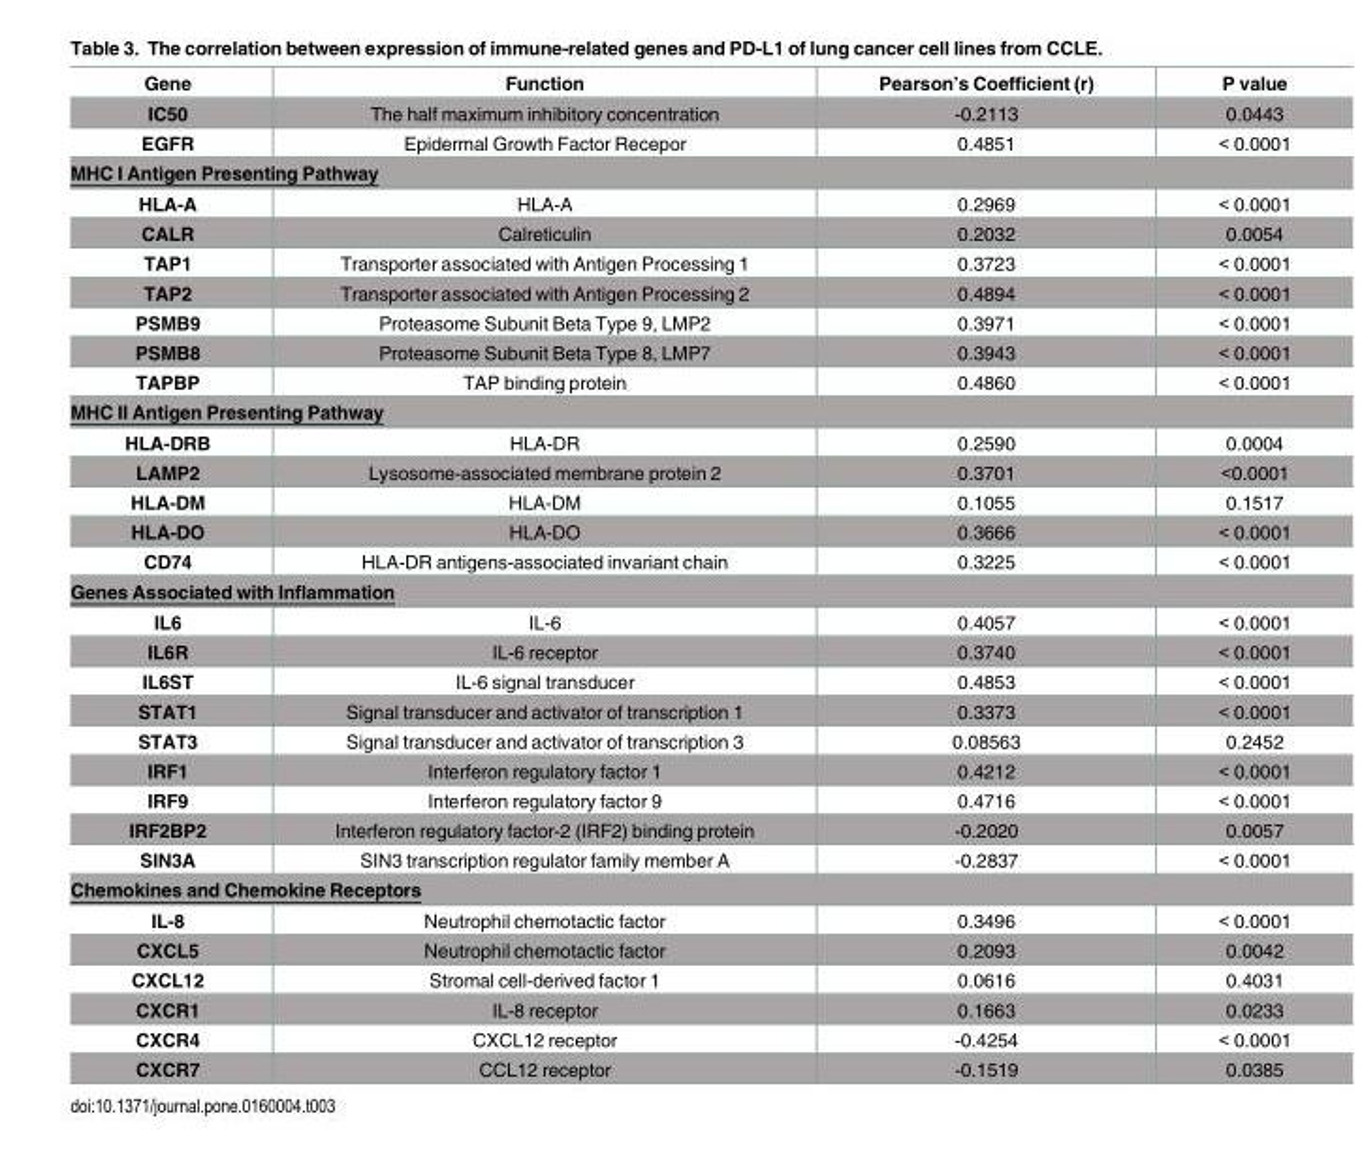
<table><thead><tr><td>Gene</td><td>Function</td><td>Pearson’s Coefficient (r)</td><td>P value</td></tr></thead><tbody><tr><td>IC50</td><td>The half maximum inhibitory concentration</td><td>-0.2113</td><td>0.0443</td></tr><tr><td>EGFR</td><td>Epidermal Growth Factor Recepor</td><td>0.4851</td><td>&lt; 0.0001</td></tr><tr><td colspan="4">MHC I Antigen Presenting Pathway</td></tr><tr><td>HLA-A</td><td>HLA-A</td><td>0.2969</td><td>&lt; 0.0001</td></tr><tr><td>CALR</td><td>Calreticulin</td><td>0.2032</td><td>0.0054</td></tr><tr><td>TAP1</td><td>Transporter associated with Antigen Processing 1</td><td>0.3723</td><td>&lt; 0.0001</td></tr><tr><td>TAP2</td><td>Transporter associated with Antigen Processing 2</td><td>0.4894</td><td>&lt; 0.0001</td></tr><tr><td>PSMB9</td><td>Proteasome Subunit Beta Type 9, LMP2</td><td>0.3971</td><td>&lt; 0.0001</td></tr><tr><td>PSMB8</td><td>Proteasome Subunit Beta Type 8, LMP7</td><td>0.3943</td><td>&lt; 0.0001</td></tr><tr><td>TAPBP</td><td>TAP binding protein</td><td>0.4860</td><td>&lt; 0.0001</td></tr><tr><td colspan="4">MHC II Antigen Presenting Pathway</td></tr><tr><td>HLA-DRB</td><td>HLA-DR</td><td>0.2590</td><td>0.0004</td></tr><tr><td>LAMP2</td><td>Lysosome-associated membrane protein 2</td><td>0.3701</td><td>&lt;0.0001</td></tr><tr><td>HLA-DM</td><td>HLA-DM</td><td>0.1055</td><td>0.1517</td></tr><tr><td>HLA-DO</td><td>HLA-DO</td><td>0.3666</td><td>&lt; 0.0001</td></tr><tr><td>CD74</td><td>HLA-DR antigens-associated invariant chain</td><td>0.3225</td><td>&lt; 0.0001</td></tr><tr><td colspan="4">Genes Associated with Inflammation</td></tr><tr><td>IL6</td><td>IL-6</td><td>0.4057</td><td>&lt; 0.0001</td></tr><tr><td>IL6R</td><td>IL-6 receptor</td><td>0.3740</td><td>&lt; 0.0001</td></tr><tr><td>IL6ST</td><td>IL-6 signal transducer</td><td>0.4853</td><td>&lt; 0.0001</td></tr><tr><td>STAT1</td><td>Signal transducer and activator of transcription 1</td><td>0.3373</td><td>&lt; 0.0001</td></tr><tr><td>STAT3</td><td>Signal transducer and activator of transcription 3</td><td>0.08563</td><td>0.2452</td></tr><tr><td>IRF1</td><td>Interferon regulatory factor 1</td><td>0.4212</td><td>&lt; 0.0001</td></tr><tr><td>IRF9</td><td>Interferon regulatory factor 9</td><td>0.4716</td><td>&lt; 0.0001</td></tr><tr><td>IRF2BP2</td><td>Interferon regulatory factor-2 (IRF2) binding protein</td><td>-0.2020</td><td>0.0057</td></tr><tr><td>SIN3A</td><td>SIN3 transcription regulator family member A</td><td>-0.2837</td><td>&lt; 0.0001</td></tr><tr><td colspan="4">Chemokines and Chemokine Receptors</td></tr><tr><td>IL-8</td><td>Neutrophil chemotactic factor</td><td>0.3496</td><td>&lt; 0.0001</td></tr><tr><td>CXCL5</td><td>Neutrophil chemotactic factor</td><td>0.2093</td><td>0.0042</td></tr><tr><td>CXCL12</td><td>Stromal cell-derived factor 1</td><td>0.0616</td><td>0.4031</td></tr><tr><td>CXCR1</td><td>IL-8 receptor</td><td>0.1663</td><td>0.0233</td></tr><tr><td>CXCR4</td><td>CXCL12 receptor</td><td>-0.4254</td><td>&lt; 0.0001</td></tr><tr><td>CXCR7</td><td>CCL12 receptor</td><td>-0.1519</td><td>0.0385</td></tr></tbody></table>